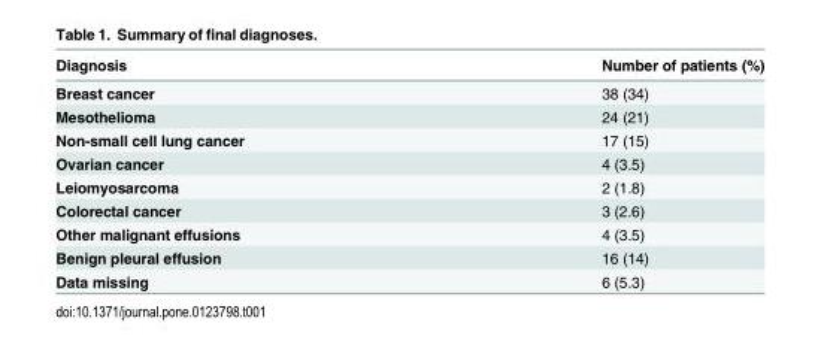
<table><thead><tr><td>Diagnosis</td><td>Number of patients (%)</td></tr></thead><tbody><tr><td>Breast cancer</td><td>38 (34)</td></tr><tr><td>Mesothelioma</td><td>24 (21)</td></tr><tr><td>Non-small cell lung cancer</td><td>17 (15)</td></tr><tr><td>Ovarian cancer</td><td>4 (3.5)</td></tr><tr><td>Leiomyosarcoma</td><td>2 (1.8)</td></tr><tr><td>Colorectal cancer</td><td>3 (2.6)</td></tr><tr><td>Other malignant effusions</td><td>4 (3.5)</td></tr><tr><td>Benign pleural effusion</td><td>16 (14)</td></tr><tr><td>Data missing</td><td>6 (5.3)</td></tr></tbody></table>